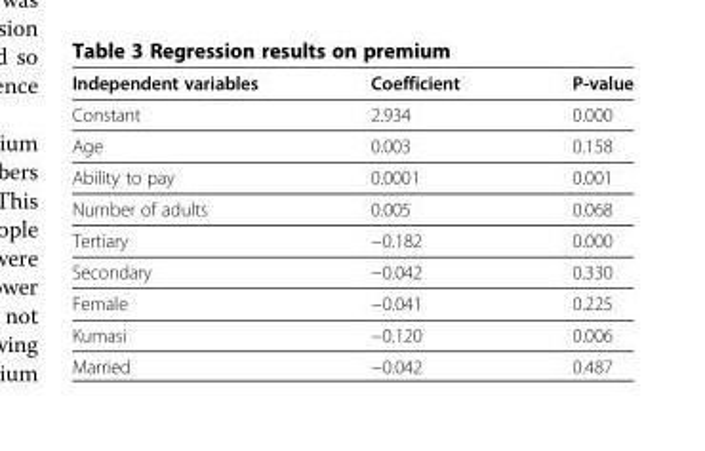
<table><thead><tr><td>Independent variables</td><td>Coefficient</td><td>P-value</td></tr></thead><tbody><tr><td>Constant</td><td>2.934</td><td>0.000</td></tr><tr><td>Age</td><td>0.003</td><td>0.158</td></tr><tr><td>Ability to pay</td><td>0.0001</td><td>0.001</td></tr><tr><td>Number of adults</td><td>0.005</td><td>0.068</td></tr><tr><td>Tertiary</td><td>−0.182</td><td>0.000</td></tr><tr><td>Secondary</td><td>−0.042</td><td>0.330</td></tr><tr><td>Female</td><td>−0.041</td><td>0.225</td></tr><tr><td>Kumasi</td><td>−0.120</td><td>0.006</td></tr><tr><td>Married</td><td>−0.042</td><td>0.487</td></tr></tbody></table>